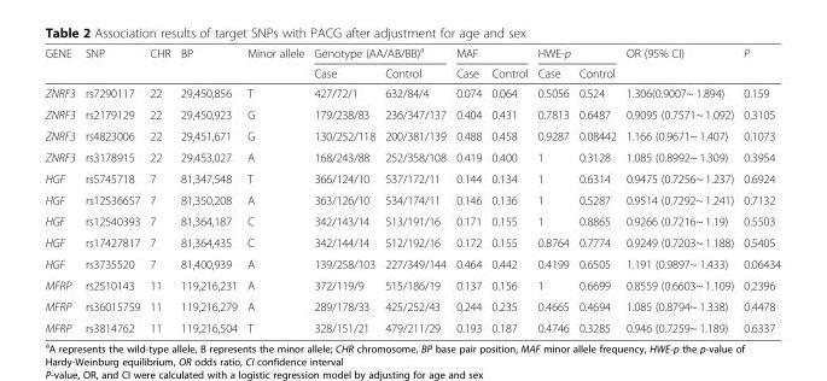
<table><thead><tr><td rowspan="2">GENE</td><td rowspan="2">SNP</td><td rowspan="2">CHR</td><td rowspan="2">BP</td><td rowspan="2">Minor allele</td><td colspan="2">Genotype (AA/AB/BB)<sup>a</sup></td><td colspan="2">MAF</td><td colspan="2">HWE-p</td><td rowspan="2">OR (95% CI)</td><td rowspan="2">P</td></tr><tr><td>Case</td><td>Control</td><td>Case</td><td>Control</td><td>Case</td><td>Control</td></tr></thead><tbody><tr><td>ZNRF3</td><td>rs7290117</td><td>22</td><td>29,450,856</td><td>T</td><td>427/72/1</td><td>632/84/4</td><td>0.074</td><td>0.064</td><td>0.5056</td><td>0.524</td><td>1.306(0.9007~ 1.894)</td><td>0.159</td></tr><tr><td>ZNRF3</td><td>rs2179129</td><td>22</td><td>29,450,923</td><td>G</td><td>179/238/83</td><td>236/347/137</td><td>0.404</td><td>0.431</td><td>0.7813</td><td>0.6487</td><td>0.9095 (0.7571~ 1.092)</td><td>0.3105</td></tr><tr><td>ZNRF3</td><td>rs4823006</td><td>22</td><td>29,451,671</td><td>G</td><td>130/252/118</td><td>200/381/139</td><td>0.488</td><td>0.458</td><td>0.9287</td><td>0.08442</td><td>1.166 (0.9671~ 1.407)</td><td>0.1073</td></tr><tr><td>ZNRF3</td><td>rs3178915</td><td>22</td><td>29,453,027</td><td>A</td><td>168/243/88</td><td>252/358/108</td><td>0.419</td><td>0.400</td><td>1</td><td>0.3128</td><td>1.085 (0.8992~ 1.309)</td><td>0.3954</td></tr><tr><td>HGF</td><td>rs5745718</td><td>7</td><td>81,347,548</td><td>T</td><td>366/124/10</td><td>537/172/11</td><td>0.144</td><td>0.134</td><td>1</td><td>0.6314</td><td>0.9475 (0.7256~ 1.237)</td><td>0.6924</td></tr><tr><td>HGF</td><td>rs12536657</td><td>7</td><td>81,350,208</td><td>A</td><td>363/126/10</td><td>534/174/11</td><td>0.146</td><td>0.136</td><td>1</td><td>0.5287</td><td>0.9514 (0.7292~ 1.241)</td><td>0.7132</td></tr><tr><td>HGF</td><td>rs12540393</td><td>7</td><td>81,364,187</td><td>C</td><td>342/143/14</td><td>513/191/16</td><td>0.171</td><td>0.155</td><td>1</td><td>0.8865</td><td>0.9266 (0.7216~ 1.19)</td><td>0.5503</td></tr><tr><td>HGF</td><td>rs17427817</td><td>7</td><td>81,364,435</td><td>C</td><td>342/144/14</td><td>512/192/16</td><td>0.172</td><td>0.155</td><td>0.8764</td><td>0.7774</td><td>0.9249 (0.7203~ 1.188)</td><td>0.5405</td></tr><tr><td>HGF</td><td>rs3735520</td><td>7</td><td>81,400,939</td><td>A</td><td>139/258/103</td><td>227/349/144</td><td>0.464</td><td>0.442</td><td>0.4199</td><td>0.6505</td><td>1.191 (0.9897~ 1.433)</td><td>0.06434</td></tr><tr><td>MFRP</td><td>rs2510143</td><td>11</td><td>119,216,231</td><td>A</td><td>372/119/9</td><td>515/186/19</td><td>0.137</td><td>0.156</td><td>1</td><td>0.6699</td><td>0.8559 (0.6603~ 1.109)</td><td>0.2396</td></tr><tr><td>MFRP</td><td>rs36015759</td><td>11</td><td>119,216,279</td><td>A</td><td>289/178/33</td><td>425/252/43</td><td>0.244</td><td>0.235</td><td>0.4665</td><td>0.4694</td><td>1.085 (0.8794~ 1.338)</td><td>0.4478</td></tr><tr><td>MFRP</td><td>rs3814762</td><td>11</td><td>119,216,504</td><td>T</td><td>328/151/21</td><td>479/211/29</td><td>0.193</td><td>0.187</td><td>0.4746</td><td>0.3285</td><td>0.946 (0.7259~ 1.189)</td><td>0.6337</td></tr></tbody></table>